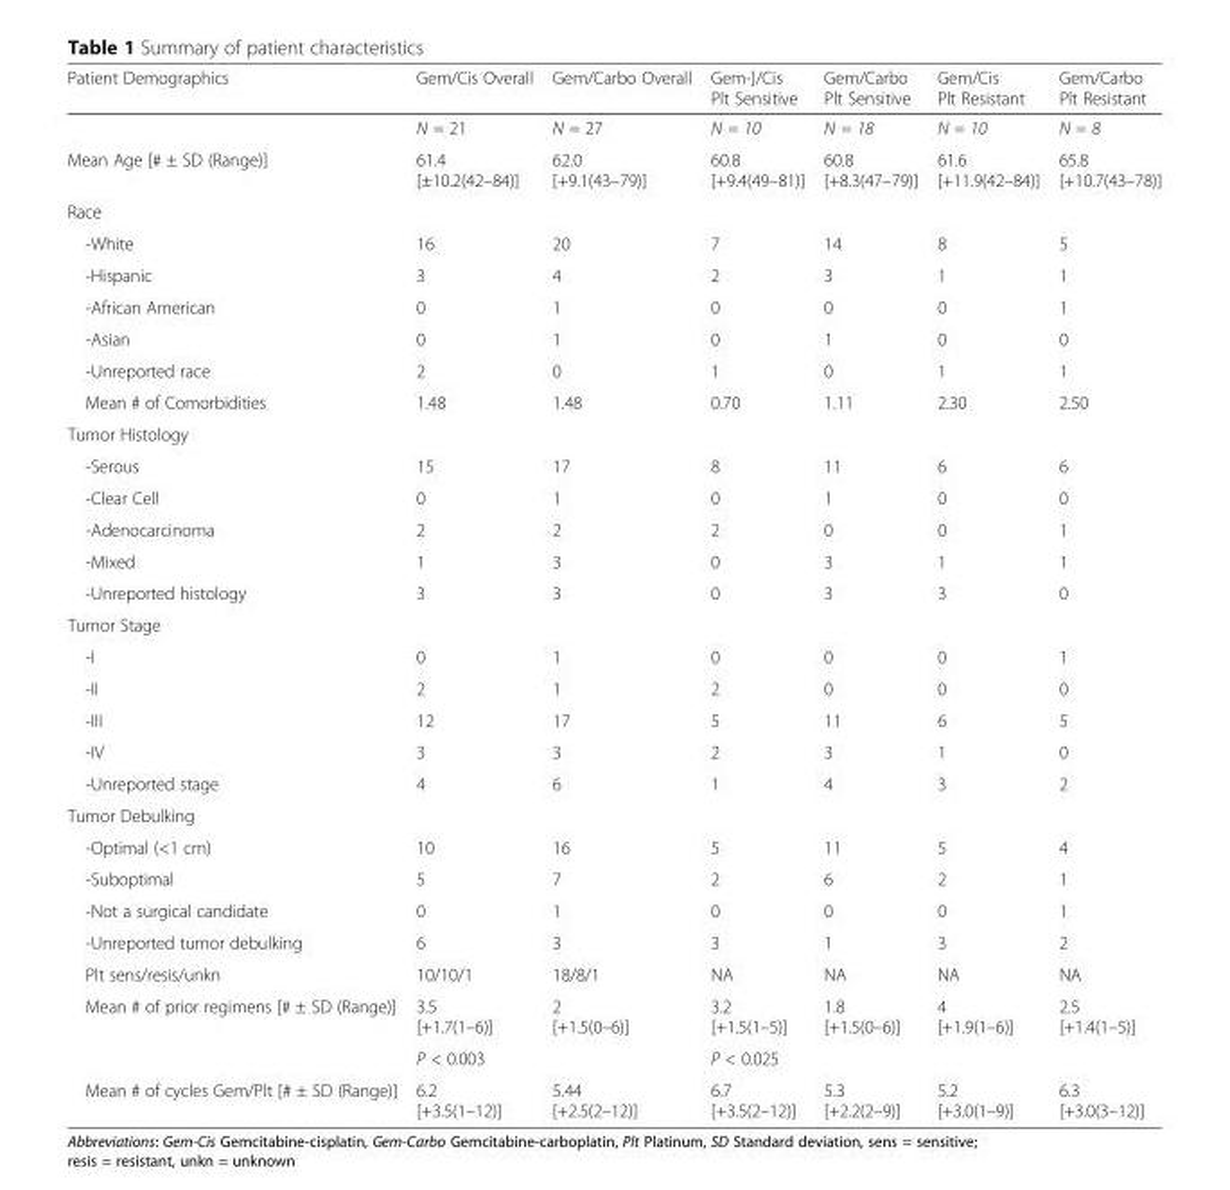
<table><thead><tr><td>Patient Demographics</td><td>Gem/Cis Overall</td><td>Gem/Carbo Overall</td><td>Gem-]/Cis Plt Sensitive</td><td>Gem/Carbo Plt Sensitive</td><td>Gem/Cis Plt Resistant</td><td>Gem/Carbo Plt Resistant</td></tr></thead><tbody><tr><td></td><td>N = 21</td><td>N = 27</td><td>N = 10</td><td>N = 18</td><td>N = 10</td><td>N = 8</td></tr><tr><td>Mean Age [# ± SD (Range)]</td><td>61.4 [±10.2(42–84)]</td><td>62.0 [+9.1(43–79)]</td><td>60.8 [+9.4(49–81)]</td><td>60.8 [+8.3(47–79)]</td><td>61.6 [+11.9(42–84)]</td><td>65.8 [+10.7(43–78)]</td></tr><tr><td colspan="7">Race</td></tr><tr><td>-White</td><td>16</td><td>20</td><td>7</td><td>14</td><td>8</td><td>5</td></tr><tr><td>-Hispanic</td><td>3</td><td>4</td><td>2</td><td>3</td><td>1</td><td>1</td></tr><tr><td>-African American</td><td>0</td><td>1</td><td>0</td><td>0</td><td>0</td><td>1</td></tr><tr><td>-Asian</td><td>0</td><td>1</td><td>0</td><td>1</td><td>0</td><td>0</td></tr><tr><td>-Unreported race</td><td>2</td><td>0</td><td>1</td><td>0</td><td>1</td><td>1</td></tr><tr><td>Mean # of Comorbidities</td><td>1.48</td><td>1.48</td><td>0.70</td><td>1.11</td><td>2.30</td><td>2.50</td></tr><tr><td colspan="7">Tumor Histology</td></tr><tr><td>-Serous</td><td>15</td><td>17</td><td>8</td><td>11</td><td>6</td><td>6</td></tr><tr><td>-Clear Cell</td><td>0</td><td>1</td><td>0</td><td>1</td><td>0</td><td>0</td></tr><tr><td>-Adenocarcinoma</td><td>2</td><td>2</td><td>2</td><td>0</td><td>0</td><td>1</td></tr><tr><td>-Mixed</td><td>1</td><td>3</td><td>0</td><td>3</td><td>1</td><td>1</td></tr><tr><td>-Unreported histology</td><td>3</td><td>3</td><td>0</td><td>3</td><td>3</td><td>0</td></tr><tr><td colspan="7">Tumor Stage</td></tr><tr><td>-I</td><td>0</td><td>1</td><td>0</td><td>0</td><td>0</td><td>1</td></tr><tr><td>-II</td><td>2</td><td>1</td><td>2</td><td>0</td><td>0</td><td>0</td></tr><tr><td>-III</td><td>12</td><td>17</td><td>5</td><td>11</td><td>6</td><td>5</td></tr><tr><td>-IV</td><td>3</td><td>3</td><td>2</td><td>3</td><td>1</td><td>0</td></tr><tr><td>-Unreported stage</td><td>4</td><td>6</td><td>1</td><td>4</td><td>3</td><td>2</td></tr><tr><td colspan="7">Tumor Debulking</td></tr><tr><td>-Optimal (&lt;1 cm)</td><td>10</td><td>16</td><td>5</td><td>11</td><td>5</td><td>4</td></tr><tr><td>-Suboptimal</td><td>5</td><td>7</td><td>2</td><td>6</td><td>2</td><td>1</td></tr><tr><td>-Not a surgical candidate</td><td>0</td><td>1</td><td>0</td><td>0</td><td>0</td><td>1</td></tr><tr><td>-Unreported tumor debulking</td><td>6</td><td>3</td><td>3</td><td>1</td><td>3</td><td>2</td></tr><tr><td>Plt sens/resis/unkn</td><td>10/10/1</td><td>18/8/1</td><td>NA</td><td>NA</td><td>NA</td><td>NA</td></tr><tr><td rowspan="2">Mean # of prior regimens [# ± SD (Range)]</td><td>3.5 [+1.7(1–6)]</td><td>2 [+1.5(0–6)]</td><td>3.2 [+1.5(1–5)]</td><td>1.8 [+1.5(0–6)]</td><td>4 [+1.9(1–6)]</td><td>2.5 [+1.4(1–5)]</td></tr><tr><td colspan="2">P &lt; 0.003</td><td colspan="2">P &lt; 0.025</td><td colspan="2"></td></tr><tr><td>Mean # of cycles Gem/Plt [# ± SD (Range)]</td><td>6.2 [+3.5(1–12)]</td><td>5.44 [+2.5(2–12)]</td><td>6.7 [+3.5(2–12)]</td><td>5.3 [+2.2(2–9)]</td><td>5.2 [+3.0(1–9)]</td><td>6.3 [+3.0(3–12)]</td></tr></tbody></table>